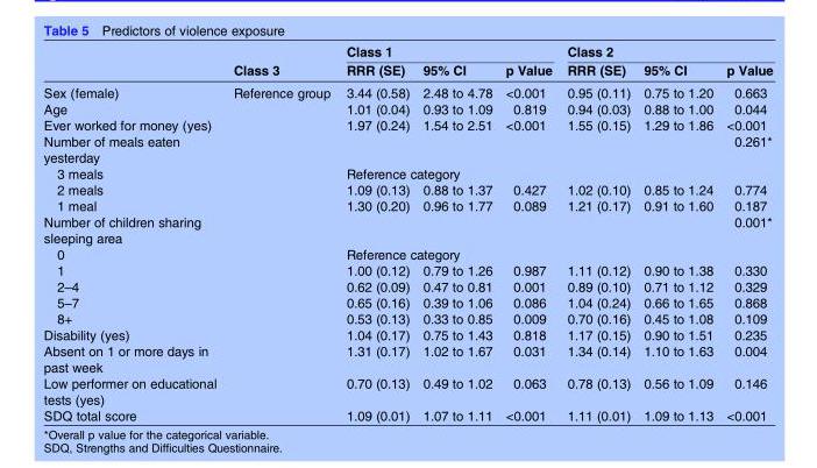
<table><thead><tr><td rowspan="2"></td><td rowspan="2">Class 3</td><td colspan="3">Class 1</td><td colspan="3">Class 2</td></tr><tr><td>RRR (SE)</td><td>95% CI</td><td>p Value</td><td>RRR (SE)</td><td>95% CI</td><td>p Value</td></tr></thead><tbody><tr><td>Sex (female)</td><td>Reference group</td><td>3.44 (0.58)</td><td>2.48 to 4.78</td><td>&lt;0.001</td><td>0.95 (0.11)</td><td>0.75 to 1.20</td><td>0.663</td></tr><tr><td>Age</td><td></td><td>1.01 (0.04)</td><td>0.93 to 1.09</td><td>0.819</td><td>0.94 (0.03)</td><td>0.88 to 1.00</td><td>0.044</td></tr><tr><td>Ever worked for money (yes)</td><td></td><td>1.97 (0.24)</td><td>1.54 to 2.51</td><td>&lt;0.001</td><td>1.55 (0.15)</td><td>1.29 to 1.86</td><td>&lt;0.001</td></tr><tr><td>Number of meals eaten yesterday</td><td></td><td></td><td></td><td></td><td></td><td></td><td>0.261*</td></tr><tr><td>3 meals</td><td></td><td colspan="2">Reference category</td><td></td><td></td><td></td><td></td></tr><tr><td>2 meals</td><td></td><td>1.09 (0.13)</td><td>0.88 to 1.37</td><td>0.427</td><td>1.02 (0.10)</td><td>0.85 to 1.24</td><td>0.774</td></tr><tr><td>1 meal</td><td></td><td>1.30 (0.20)</td><td>0.96 to 1.77</td><td>0.089</td><td>1.21 (0.17)</td><td>0.91 to 1.60</td><td>0.187</td></tr><tr><td>Number of children sharing sleeping area</td><td></td><td></td><td></td><td></td><td></td><td></td><td>0.001*</td></tr><tr><td>0</td><td></td><td colspan="2">Reference category</td><td></td><td></td><td></td><td></td></tr><tr><td>1</td><td></td><td>1.00 (0.12)</td><td>0.79 to 1.26</td><td>0.987</td><td>1.11 (0.12)</td><td>0.90 to 1.38</td><td>0.330</td></tr><tr><td>2–4</td><td></td><td>0.62 (0.09)</td><td>0.47 to 0.81</td><td>0.001</td><td>0.89 (0.10)</td><td>0.71 to 1.12</td><td>0.329</td></tr><tr><td>5–7</td><td></td><td>0.65 (0.16)</td><td>0.39 to 1.06</td><td>0.086</td><td>1.04 (0.24)</td><td>0.66 to 1.65</td><td>0.868</td></tr><tr><td>8+</td><td></td><td>0.53 (0.13)</td><td>0.33 to 0.85</td><td>0.009</td><td>0.70 (0.16)</td><td>0.45 to 1.08</td><td>0.109</td></tr><tr><td>Disability (yes)</td><td></td><td>1.04 (0.17)</td><td>0.75 to 1.43</td><td>0.818</td><td>1.17 (0.15)</td><td>0.90 to 1.51</td><td>0.235</td></tr><tr><td>Absent on 1 or more days in past week</td><td></td><td>1.31 (0.17)</td><td>1.02 to 1.67</td><td>0.031</td><td>1.34 (0.14)</td><td>1.10 to 1.63</td><td>0.004</td></tr><tr><td>Low performer on educational tests (yes)</td><td></td><td>0.70 (0.13)</td><td>0.49 to 1.02</td><td>0.063</td><td>0.78 (0.13)</td><td>0.56 to 1.09</td><td>0.146</td></tr><tr><td>SDQ total score</td><td></td><td>1.09 (0.01)</td><td>1.07 to 1.11</td><td>&lt;0.001</td><td>1.11 (0.01)</td><td>1.09 to 1.13</td><td>&lt;0.001</td></tr></tbody></table>